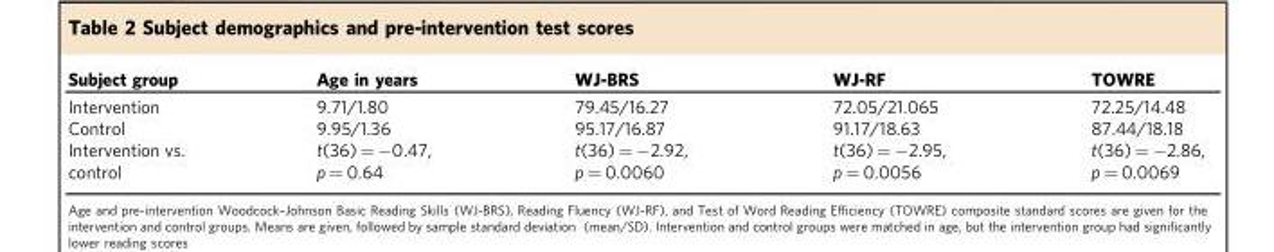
<table><thead><tr><td>Subject group</td><td>Age in years</td><td>WJ-BRS</td><td>WJ-RF</td><td>TOWRE</td></tr></thead><tbody><tr><td>Intervention</td><td>9.71/1.80</td><td>79.45/16.27</td><td>72.05/21.065</td><td>72.25/14.48</td></tr><tr><td>Control</td><td>9.95/1.36</td><td>95.17/16.87</td><td>91.17/18.63</td><td>87.44/18.18</td></tr><tr><td>Intervention vs. control</td><td>t(36) = −0.47, p = 0.64</td><td>t(36) = −2.92, p = 0.0060</td><td>t(36) = −2.95, p = 0.0056</td><td>t(36) = −2.86, p = 0.0069</td></tr></tbody></table>